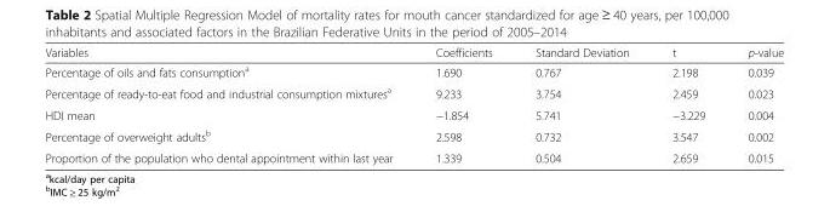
<table><thead><tr><td>Variables</td><td>Coefficients</td><td>Standard Deviation</td><td>t</td><td>p-value</td></tr></thead><tbody><tr><td>Percentage of oils and fats consumption<sup>a</sup></td><td>1.690</td><td>0.767</td><td>2.198</td><td>0.039</td></tr><tr><td>Percentage of ready-to-eat food and industrial consumption mixtures<sup>a</sup></td><td>9.233</td><td>3.754</td><td>2.459</td><td>0.023</td></tr><tr><td>HDI mean</td><td>−1.854</td><td>5.741</td><td>−3.229</td><td>0.004</td></tr><tr><td>Percentage of overweight adults<sup>b</sup></td><td>2.598</td><td>0.732</td><td>3.547</td><td>0.002</td></tr><tr><td>Proportion of the population who dental appointment within last year</td><td>1.339</td><td>0.504</td><td>2.659</td><td>0.015</td></tr></tbody></table>